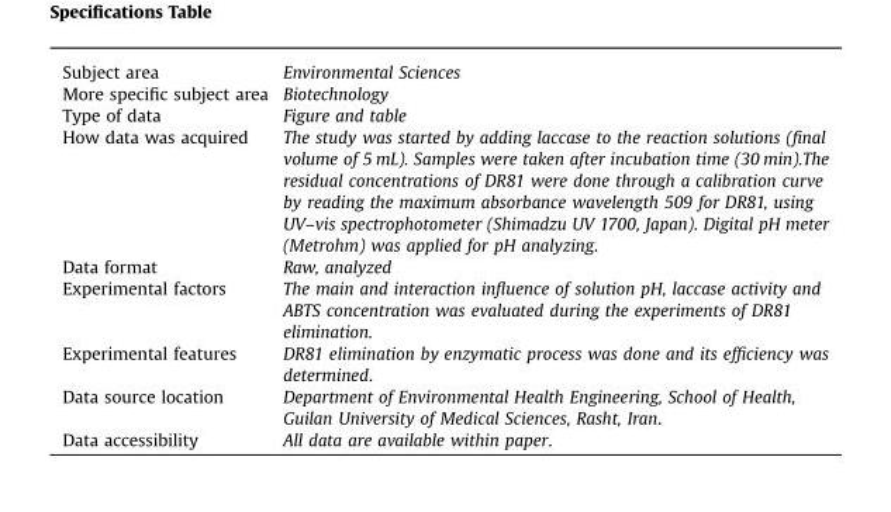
<table><tbody><tr><td>Subject area</td><td>Environmental Sciences</td></tr><tr><td>More specific subject area</td><td>Biotechnology</td></tr><tr><td>Type of data</td><td>Figure and table</td></tr><tr><td>How data was acquired</td><td>The study was started by adding laccase to the reaction solutions (final volume of 5 mL). Samples were taken after incubation time (30 min).The residual concentrations of DR81 were done through a calibration curve by reading the maximum absorbance wavelength 509 for DR81, using UV–vis spectrophotometer (Shimadzu UV 1700, Japan). Digital pH meter (Metrohm) was applied for pH analyzing.</td></tr><tr><td>Data format</td><td>Raw, analyzed</td></tr><tr><td>Experimental factors</td><td>The main and interaction influence of solution pH, laccase activity and ABTS concentration was evaluated during the experiments of DR81 elimination.</td></tr><tr><td>Experimental features</td><td>DR81 elimination by enzymatic process was done and its efficiency was determined.</td></tr><tr><td>Data source location</td><td>Department of Environmental Health Engineering, School of Health, Guilan University of Medical Sciences, Rasht, Iran.</td></tr><tr><td>Data accessibility</td><td>All data are available within paper.</td></tr></tbody></table>